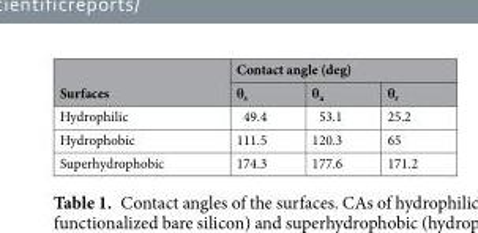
<table><thead><tr><td rowspan="2">Surfaces</td><td colspan="3">Contact angle (deg)</td></tr><tr><td>θ<sub>s</sub></td><td>θ<sub>a</sub></td><td>θ<sub>r</sub></td></tr></thead><tbody><tr><td>Hydrophilic</td><td>49.4</td><td>53.1</td><td>25.2</td></tr><tr><td>Hydrophobic</td><td>111.5</td><td>120.3</td><td>65</td></tr><tr><td>Superhydrophobic</td><td>174.3</td><td>177.6</td><td>171.2</td></tr></tbody></table>